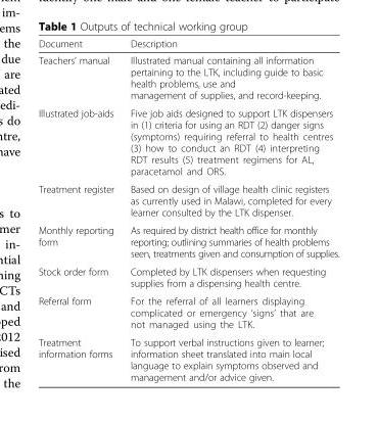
<table><thead><tr><td>Document</td><td>Description</td></tr></thead><tbody><tr><td>Teachers’ manual</td><td>Illustrated manual containing all information pertaining to the LTK, including guide to basic health problems, use and management of supplies, and record-keeping.</td></tr><tr><td>Illustrated job-aids</td><td>Five job aids designed to support LTK dispensers in (1) criteria for using an RDT (2) danger signs (symptoms) requiring referral to health centres (3) how to conduct an RDT (4) interpreting RDT results (5) treatment regimens for AL, paracetamol and ORS.</td></tr><tr><td>Treatment register</td><td>Based on design of village health clinic registers as currently used in Malawi, completed for every learner consulted by the LTK dispenser.</td></tr><tr><td>Monthly reporting form</td><td>As required by district health office for monthly reporting; outlining summaries of health problems seen, treatments given and consumption of supplies.</td></tr><tr><td>Stock order form</td><td>Completed by LTK dispensers when requesting supplies from a dispensing health centre.</td></tr><tr><td>Referral form</td><td>For the referral of all learners displaying complicated or emergency ‘signs’ that are not managed using the LTK.</td></tr><tr><td>Treatment information forms</td><td>To support verbal instructions given to learner; information sheet translated into main local language to explain symptoms observed and management and/or advice given.</td></tr></tbody></table>